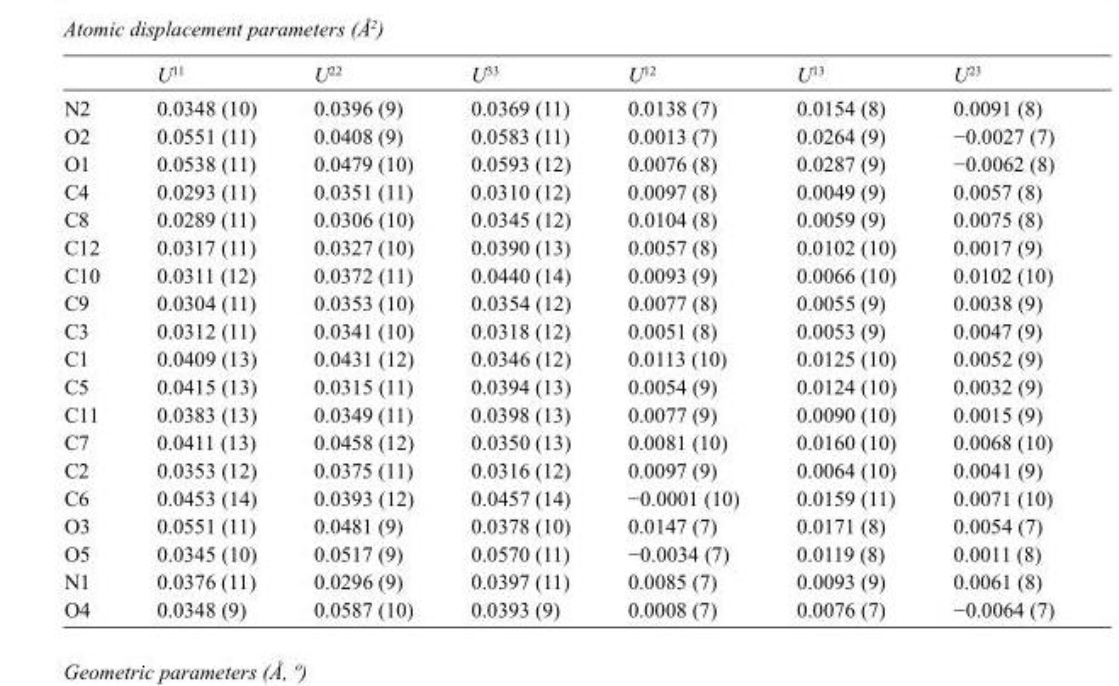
<table><thead><tr><td></td><td>U<sup>11</sup></td><td>U<sup>22</sup></td><td>U<sup>33</sup></td><td>U<sup>12</sup></td><td>U<sup>13</sup></td><td>U<sup>23</sup></td></tr></thead><tbody><tr><td>N2</td><td>0.0348 (10)</td><td>0.0396 (9)</td><td>0.0369 (11)</td><td>0.0138 (7)</td><td>0.0154 (8)</td><td>0.0091 (8)</td></tr><tr><td>O2</td><td>0.0551 (11)</td><td>0.0408 (9)</td><td>0.0583 (11)</td><td>0.0013 (7)</td><td>0.0264 (9)</td><td>−0.0027 (7)</td></tr><tr><td>O1</td><td>0.0538 (11)</td><td>0.0479 (10)</td><td>0.0593 (12)</td><td>0.0076 (8)</td><td>0.0287 (9)</td><td>−0.0062 (8)</td></tr><tr><td>C4</td><td>0.0293 (11)</td><td>0.0351 (11)</td><td>0.0310 (12)</td><td>0.0097 (8)</td><td>0.0049 (9)</td><td>0.0057 (8)</td></tr><tr><td>C8</td><td>0.0289 (11)</td><td>0.0306 (10)</td><td>0.0345 (12)</td><td>0.0104 (8)</td><td>0.0059 (9)</td><td>0.0075 (8)</td></tr><tr><td>C12</td><td>0.0317 (11)</td><td>0.0327 (10)</td><td>0.0390 (13)</td><td>0.0057 (8)</td><td>0.0102 (10)</td><td>0.0017 (9)</td></tr><tr><td>C10</td><td>0.0311 (12)</td><td>0.0372 (11)</td><td>0.0440 (14)</td><td>0.0093 (9)</td><td>0.0066 (10)</td><td>0.0102 (10)</td></tr><tr><td>C9</td><td>0.0304 (11)</td><td>0.0353 (10)</td><td>0.0354 (12)</td><td>0.0077 (8)</td><td>0.0055 (9)</td><td>0.0038 (9)</td></tr><tr><td>C3</td><td>0.0312 (11)</td><td>0.0341 (10)</td><td>0.0318 (12)</td><td>0.0051 (8)</td><td>0.0053 (9)</td><td>0.0047 (9)</td></tr><tr><td>C1</td><td>0.0409 (13)</td><td>0.0431 (12)</td><td>0.0346 (12)</td><td>0.0113 (10)</td><td>0.0125 (10)</td><td>0.0052 (9)</td></tr><tr><td>C5</td><td>0.0415 (13)</td><td>0.0315 (11)</td><td>0.0394 (13)</td><td>0.0054 (9)</td><td>0.0124 (10)</td><td>0.0032 (9)</td></tr><tr><td>C11</td><td>0.0383 (13)</td><td>0.0349 (11)</td><td>0.0398 (13)</td><td>0.0077 (9)</td><td>0.0090 (10)</td><td>0.0015 (9)</td></tr><tr><td>C7</td><td>0.0411 (13)</td><td>0.0458 (12)</td><td>0.0350 (13)</td><td>0.0081 (10)</td><td>0.0160 (10)</td><td>0.0068 (10)</td></tr><tr><td>C2</td><td>0.0353 (12)</td><td>0.0375 (11)</td><td>0.0316 (12)</td><td>0.0097 (9)</td><td>0.0064 (10)</td><td>0.0041 (9)</td></tr><tr><td>C6</td><td>0.0453 (14)</td><td>0.0393 (12)</td><td>0.0457 (14)</td><td>−0.0001 (10)</td><td>0.0159 (11)</td><td>0.0071 (10)</td></tr><tr><td>O3</td><td>0.0551 (11)</td><td>0.0481 (9)</td><td>0.0378 (10)</td><td>0.0147 (7)</td><td>0.0171 (8)</td><td>0.0054 (7)</td></tr><tr><td>O5</td><td>0.0345 (10)</td><td>0.0517 (9)</td><td>0.0570 (11)</td><td>−0.0034 (7)</td><td>0.0119 (8)</td><td>0.0011 (8)</td></tr><tr><td>N1</td><td>0.0376 (11)</td><td>0.0296 (9)</td><td>0.0397 (11)</td><td>0.0085 (7)</td><td>0.0093 (9)</td><td>0.0061 (8)</td></tr><tr><td>O4</td><td>0.0348 (9)</td><td>0.0587 (10)</td><td>0.0393 (9)</td><td>0.0008 (7)</td><td>0.0076 (7)</td><td>−0.0064 (7)</td></tr></tbody></table>